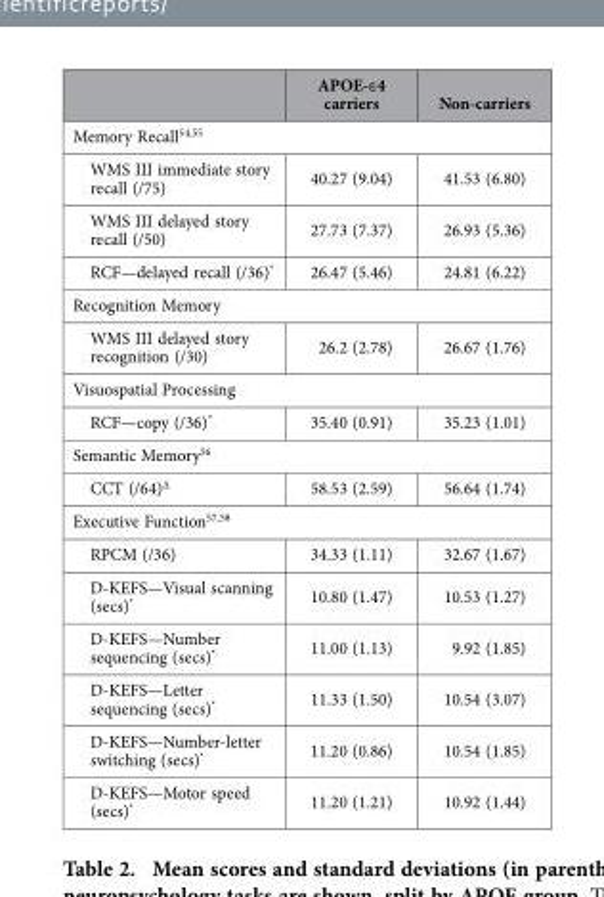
<table><thead><tr><td></td><td>APOE-ε4 carriers</td><td>Non-carriers</td></tr></thead><tbody><tr><td colspan="3">Memory Recall<sup>54</sup>,<sup>55</sup></td></tr><tr><td>WMS III immediate story recall (/75)</td><td>40.27 (9.04)</td><td>41.53 (6.80)</td></tr><tr><td>WMS III delayed story recall (/50)</td><td>27.73 (7.37)</td><td>26.93 (5.36)</td></tr><tr><td>RCF—delayed recall (/36)*</td><td>26.47 (5.46)</td><td>24.81 (6.22)</td></tr><tr><td colspan="3">Recognition Memory</td></tr><tr><td>WMS III delayed story recognition (/30)</td><td>26.2 (2.78)</td><td>26.67 (1.76)</td></tr><tr><td colspan="3">Visuospatial Processing</td></tr><tr><td>RCF—copy (/36)*</td><td>35.40 (0.91)</td><td>35.23 (1.01)</td></tr><tr><td colspan="3">Semantic Memory<sup>56</sup></td></tr><tr><td>CCT (/64)<sup>∆</sup></td><td>58.53 (2.59)</td><td>56.64 (1.74)</td></tr><tr><td colspan="3">Executive Function<sup>57</sup>,<sup>58</sup></td></tr><tr><td>RPCM (/36)</td><td>34.33 (1.11)</td><td>32.67 (1.67)</td></tr><tr><td>D-KEFS—Visual scanning (secs)*</td><td>10.80 (1.47)</td><td>10.53 (1.27)</td></tr><tr><td>D-KEFS—Number sequencing (secs)*</td><td>11.00 (1.13)</td><td>9.92 (1.85)</td></tr><tr><td>D-KEFS—Letter sequencing (secs)*</td><td>11.33 (1.50)</td><td>10.54 (3.07)</td></tr><tr><td>D-KEFS—Number-letter switching (secs)*</td><td>11.20 (0.86)</td><td>10.54 (1.85)</td></tr><tr><td>D-KEFS—Motor speed (secs)*</td><td>11.20 (1.21)</td><td>10.92 (1.44)</td></tr></tbody></table>